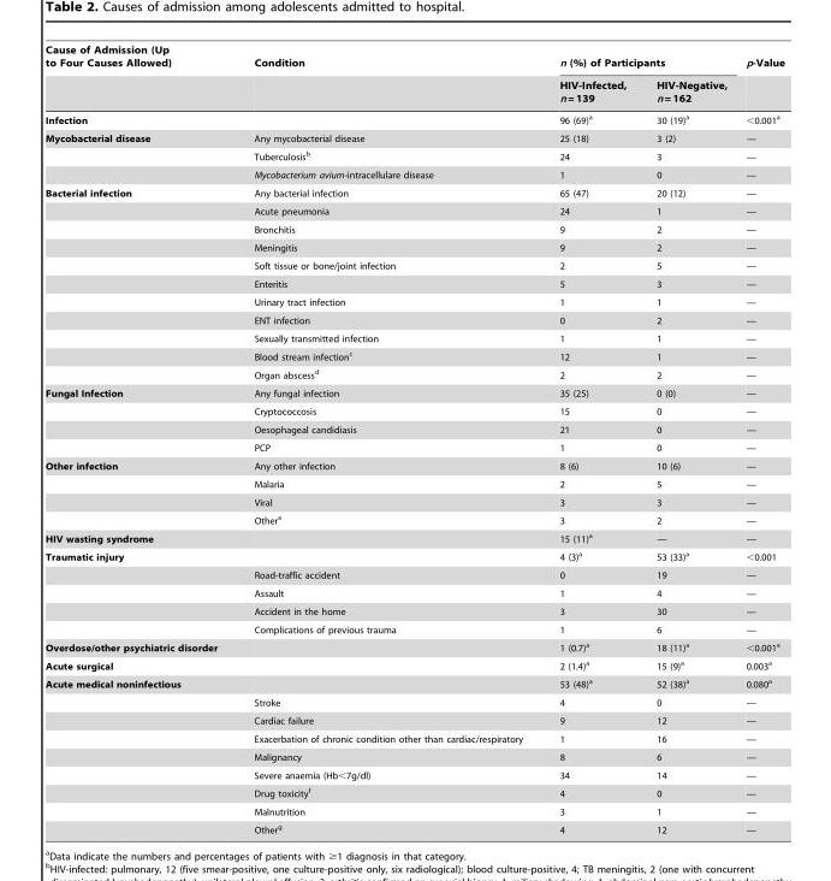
<table><thead><tr><td rowspan="2">Cause of Admission (Up to Four Causes Allowed)</td><td rowspan="2">Condition</td><td colspan="2">n (%) of Participants</td><td rowspan="2">p-Value</td></tr><tr><td>HIV-Infected, n = 139</td><td>HIV-Negative, n = 162</td></tr></thead><tbody><tr><td>Infection</td><td></td><td>96 (69)<sup>a</sup></td><td>30 (19)<sup>a</sup></td><td>&lt;0.001<sup>a</sup></td></tr><tr><td rowspan="3">Mycobacterial disease</td><td>Any mycobacterial disease</td><td>25 (18)</td><td>3 (2)</td><td>—</td></tr><tr><td>Tuberculosis<sup>b</sup></td><td>24</td><td>3</td><td>—</td></tr><tr><td>Mycobacterium avium-intracellulare disease</td><td>1</td><td>0</td><td>—</td></tr><tr><td rowspan="11">Bacterial infection</td><td>Any bacterial infection</td><td>65 (47)</td><td>20 (12)</td><td>—</td></tr><tr><td>Acute pneumonia</td><td>24</td><td>1</td><td>—</td></tr><tr><td>Bronchitis</td><td>9</td><td>2</td><td>—</td></tr><tr><td>Meningitis</td><td>9</td><td>2</td><td>—</td></tr><tr><td>Soft tissue or bone/joint infection</td><td>2</td><td>5</td><td>—</td></tr><tr><td>Enteritis</td><td>5</td><td>3</td><td>—</td></tr><tr><td>Urinary tract infection</td><td>1</td><td>1</td><td>—</td></tr><tr><td>ENT infection</td><td>0</td><td>2</td><td>—</td></tr><tr><td>Sexually transmitted infection</td><td>1</td><td>1</td><td>—</td></tr><tr><td>Blood stream infection<sup>c</sup></td><td>12</td><td>1</td><td>—</td></tr><tr><td>Organ abscess<sup>d</sup></td><td>2</td><td>2</td><td>—</td></tr><tr><td rowspan="4">Fungal Infection</td><td>Any fungal infection</td><td>35 (25)</td><td>0 (0)</td><td>—</td></tr><tr><td>Cryptococcosis</td><td>15</td><td>0</td><td>—</td></tr><tr><td>Oesophageal candidiasis</td><td>21</td><td>0</td><td>—</td></tr><tr><td>PCP</td><td>1</td><td>0</td><td>—</td></tr><tr><td rowspan="4">Other infection</td><td>Any other infection</td><td>8 (6)</td><td>10 (6)</td><td>—</td></tr><tr><td>Malaria</td><td>2</td><td>5</td><td>—</td></tr><tr><td>Viral</td><td>3</td><td>3</td><td>—</td></tr><tr><td>Other<sup>e</sup></td><td>3</td><td>2</td><td>—</td></tr><tr><td>HIV wasting syndrome</td><td></td><td>15 (11)<sup>a</sup></td><td>—</td><td>—</td></tr><tr><td rowspan="5">Traumatic injury</td><td></td><td>4 (3)<sup>a</sup></td><td>53 (33)<sup>a</sup></td><td>&lt;0.001</td></tr><tr><td>Road-traffic accident</td><td>0</td><td>19</td><td>—</td></tr><tr><td>Assault</td><td>1</td><td>4</td><td>—</td></tr><tr><td>Accident in the home</td><td>3</td><td>30</td><td>—</td></tr><tr><td>Complications of previous trauma</td><td>1</td><td>6</td><td>—</td></tr><tr><td>Overdose/other psychiatric disorder</td><td></td><td>1 (0.7)<sup>a</sup></td><td>18 (11)<sup>a</sup></td><td>&lt;0.001<sup>a</sup></td></tr><tr><td>Acute surgical</td><td></td><td>2 (1.4)<sup>a</sup></td><td>15 (9)<sup>a</sup></td><td>0.003<sup>a</sup></td></tr><tr><td rowspan="9">Acute medical noninfectious</td><td></td><td>53 (48)<sup>a</sup></td><td>52 (38)<sup>a</sup></td><td>0.080<sup>a</sup></td></tr><tr><td>Stroke</td><td>4</td><td>0</td><td>—</td></tr><tr><td>Cardiac failure</td><td>9</td><td>12</td><td>—</td></tr><tr><td>Exacerbation of chronic condition other than cardiac/respiratory</td><td>1</td><td>16</td><td>—</td></tr><tr><td>Malignancy</td><td>8</td><td>6</td><td>—</td></tr><tr><td>Severe anaemia (Hb&lt;7g/dl)</td><td>34</td><td>14</td><td>—</td></tr><tr><td>Drug toxicity<sup>f</sup></td><td>4</td><td>0</td><td>—</td></tr><tr><td>Malnutrition</td><td>3</td><td>1</td><td>—</td></tr><tr><td>Other<sup>g</sup></td><td>4</td><td>12</td><td>—</td></tr></tbody></table>